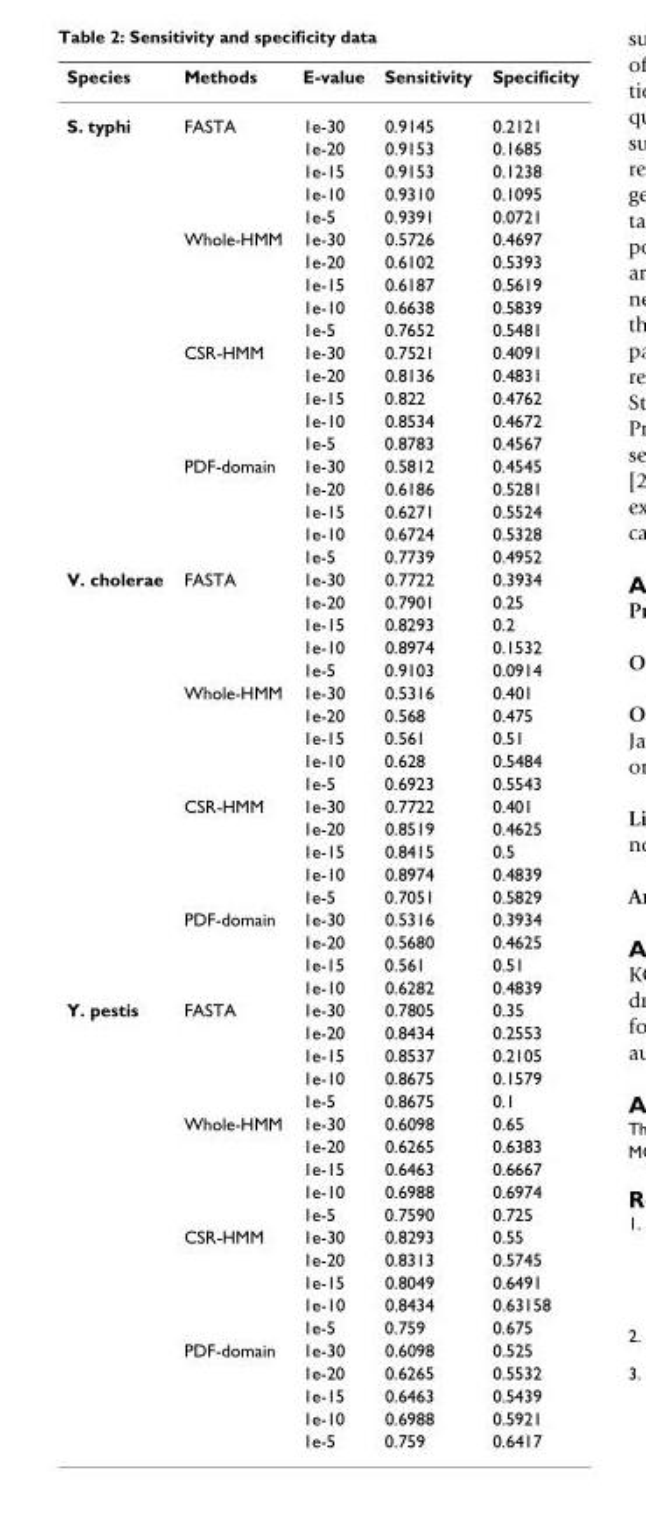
<table><thead><tr><td>Species</td><td>Methods</td><td>E-value</td><td>Sensitivity</td><td>Specificity</td></tr></thead><tbody><tr><td rowspan="20">S. typhi</td><td>FASTA</td><td>1e-30</td><td>0.9145</td><td>0.2121</td></tr><tr><td></td><td>1e-20</td><td>0.9153</td><td>0.1685</td></tr><tr><td></td><td>1e-15</td><td>0.9153</td><td>0.1238</td></tr><tr><td></td><td>1e-10</td><td>0.9310</td><td>0.1095</td></tr><tr><td></td><td>1e-5</td><td>0.9391</td><td>0.0721</td></tr><tr><td>Whole-HMM</td><td>1e-30</td><td>0.5726</td><td>0.4697</td></tr><tr><td></td><td>1e-20</td><td>0.6102</td><td>0.5393</td></tr><tr><td></td><td>1e-15</td><td>0.6187</td><td>0.5619</td></tr><tr><td></td><td>1e-10</td><td>0.6638</td><td>0.5839</td></tr><tr><td></td><td>1e-5</td><td>0.7652</td><td>0.5481</td></tr><tr><td>CSR-HMM</td><td>1e-30</td><td>0.7521</td><td>0.4091</td></tr><tr><td></td><td>1e-20</td><td>0.8136</td><td>0.4831</td></tr><tr><td></td><td>1e-15</td><td>0.822</td><td>0.4762</td></tr><tr><td></td><td>1e-10</td><td>0.8534</td><td>0.4672</td></tr><tr><td></td><td>1e-5</td><td>0.8783</td><td>0.4567</td></tr><tr><td>PDF-domain</td><td>1e-30</td><td>0.5812</td><td>0.4545</td></tr><tr><td></td><td>1e-20</td><td>0.6186</td><td>0.5281</td></tr><tr><td></td><td>1e-15</td><td>0.6271</td><td>0.5524</td></tr><tr><td></td><td>1e-10</td><td>0.6724</td><td>0.5328</td></tr><tr><td></td><td>1e-5</td><td>0.7739</td><td>0.4952</td></tr><tr><td rowspan="19">V. cholerae</td><td>FASTA</td><td>1e-30</td><td>0.7722</td><td>0.3934</td></tr><tr><td></td><td>1e-20</td><td>0.7901</td><td>0.25</td></tr><tr><td></td><td>1e-15</td><td>0.8293</td><td>0.2</td></tr><tr><td></td><td>1e-10</td><td>0.8974</td><td>0.1532</td></tr><tr><td></td><td>1e-5</td><td>0.9103</td><td>0.0914</td></tr><tr><td>Whole-HMM</td><td>1e-30</td><td>0.5316</td><td>0.401</td></tr><tr><td></td><td>1e-20</td><td>0.568</td><td>0.475</td></tr><tr><td></td><td>1e-15</td><td>0.561</td><td>0.51</td></tr><tr><td></td><td>1e-10</td><td>0.628</td><td>0.5484</td></tr><tr><td></td><td>1e-5</td><td>0.6923</td><td>0.5543</td></tr><tr><td>CSR-HMM</td><td>1e-30</td><td>0.7722</td><td>0.401</td></tr><tr><td></td><td>1e-20</td><td>0.8519</td><td>0.4625</td></tr><tr><td></td><td>1e-15</td><td>0.8415</td><td>0.5</td></tr><tr><td></td><td>1e-10</td><td>0.8974</td><td>0.4839</td></tr><tr><td></td><td>1e-5</td><td>0.7051</td><td>0.5829</td></tr><tr><td>PDF-domain</td><td>1e-30</td><td>0.5316</td><td>0.3934</td></tr><tr><td></td><td>1e-20</td><td>0.5680</td><td>0.4625</td></tr><tr><td></td><td>1e-15</td><td>0.561</td><td>0.51</td></tr><tr><td></td><td>1e-10</td><td>0.6282</td><td>0.4839</td></tr><tr><td rowspan="20">Y. pestis</td><td>FASTA</td><td>1e-30</td><td>0.7805</td><td>0.35</td></tr><tr><td></td><td>1e-20</td><td>0.8434</td><td>0.2553</td></tr><tr><td></td><td>1e-15</td><td>0.8537</td><td>0.2105</td></tr><tr><td></td><td>1e-10</td><td>0.8675</td><td>0.1579</td></tr><tr><td></td><td>1e-5</td><td>0.8675</td><td>0.1</td></tr><tr><td>Whole-HMM</td><td>1e-30</td><td>0.6098</td><td>0.65</td></tr><tr><td></td><td>1e-20</td><td>0.6265</td><td>0.6383</td></tr><tr><td></td><td>1e-15</td><td>0.6463</td><td>0.6667</td></tr><tr><td></td><td>1e-10</td><td>0.6988</td><td>0.6974</td></tr><tr><td></td><td>1e-5</td><td>0.7590</td><td>0.725</td></tr><tr><td>CSR-HMM</td><td>1e-30</td><td>0.8293</td><td>0.55</td></tr><tr><td></td><td>1e-20</td><td>0.8313</td><td>0.5745</td></tr><tr><td></td><td>1e-15</td><td>0.8049</td><td>0.6491</td></tr><tr><td></td><td>1e-10</td><td>0.8434</td><td>0.63158</td></tr><tr><td></td><td>1e-5</td><td>0.759</td><td>0.675</td></tr><tr><td>PDF-domain</td><td>1e-30</td><td>0.6098</td><td>0.525</td></tr><tr><td></td><td>1e-20</td><td>0.6265</td><td>0.5532</td></tr><tr><td></td><td>1e-15</td><td>0.6463</td><td>0.5439</td></tr><tr><td></td><td>1e-10</td><td>0.6988</td><td>0.5921</td></tr><tr><td></td><td>1e-5</td><td>0.759</td><td>0.6417</td></tr></tbody></table>